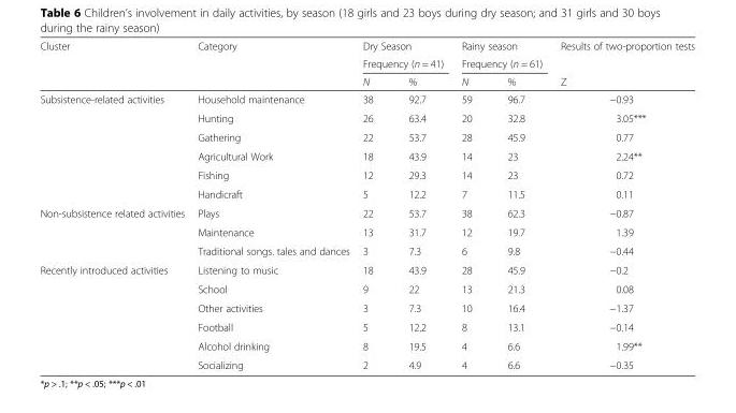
<table><thead><tr><td rowspan="3">Cluster</td><td rowspan="3">Category</td><td rowspan="2" colspan="2">Dry Season Frequency (n = 41)</td><td rowspan="2" colspan="2">Rainy season Frequency (n = 61)</td><td rowspan="3">Results of two-proportion tests Z</td></tr><tr></tr><tr><td>N</td><td>%</td><td>N</td><td>%</td></tr></thead><tbody><tr><td rowspan="6">Subsistence-related activities</td><td>Household maintenance</td><td>38</td><td>92.7</td><td>59</td><td>96.7</td><td>−0.93</td></tr><tr><td>Hunting</td><td>26</td><td>63.4</td><td>20</td><td>32.8</td><td>3.05***</td></tr><tr><td>Gathering</td><td>22</td><td>53.7</td><td>28</td><td>45.9</td><td>0.77</td></tr><tr><td>Agricultural Work</td><td>18</td><td>43.9</td><td>14</td><td>23</td><td>2.24**</td></tr><tr><td>Fishing</td><td>12</td><td>29.3</td><td>14</td><td>23</td><td>0.72</td></tr><tr><td>Handicraft</td><td>5</td><td>12.2</td><td>7</td><td>11.5</td><td>0.11</td></tr><tr><td rowspan="3">Non-subsistence related activities</td><td>Plays</td><td>22</td><td>53.7</td><td>38</td><td>62.3</td><td>−0.87</td></tr><tr><td>Maintenance</td><td>13</td><td>31.7</td><td>12</td><td>19.7</td><td>1.39</td></tr><tr><td>Traditional songs. tales and dances</td><td>3</td><td>7.3</td><td>6</td><td>9.8</td><td>−0.44</td></tr><tr><td rowspan="6">Recently introduced activities</td><td>Listening to music</td><td>18</td><td>43.9</td><td>28</td><td>45.9</td><td>−0.2</td></tr><tr><td>School</td><td>9</td><td>22</td><td>13</td><td>21.3</td><td>0.08</td></tr><tr><td>Other activities</td><td>3</td><td>7.3</td><td>10</td><td>16.4</td><td>−1.37</td></tr><tr><td>Football</td><td>5</td><td>12.2</td><td>8</td><td>13.1</td><td>−0.14</td></tr><tr><td>Alcohol drinking</td><td>8</td><td>19.5</td><td>4</td><td>6.6</td><td>1.99**</td></tr><tr><td>Socializing</td><td>2</td><td>4.9</td><td>4</td><td>6.6</td><td>−0.35</td></tr></tbody></table>